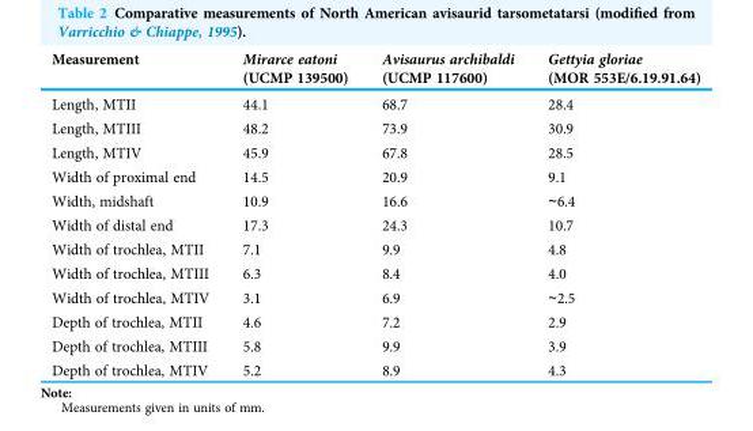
<table><thead><tr><td>Measurement</td><td>Mirarce eatoni (UCMP 139500)</td><td>Avisaurus archibaldi (UCMP 117600)</td><td>Gettyia gloriae (MOR 553E/6.19.91.64)</td></tr></thead><tbody><tr><td>Length, MTII</td><td>44.1</td><td>68.7</td><td>28.4</td></tr><tr><td>Length, MTIII</td><td>48.2</td><td>73.9</td><td>30.9</td></tr><tr><td>Length, MTIV</td><td>45.9</td><td>67.8</td><td>28.5</td></tr><tr><td>Width of proximal end</td><td>14.5</td><td>20.9</td><td>9.1</td></tr><tr><td>Width, midshaft</td><td>10.9</td><td>16.6</td><td>∼6.4</td></tr><tr><td>Width of distal end</td><td>17.3</td><td>24.3</td><td>10.7</td></tr><tr><td>Width of trochlea, MTII</td><td>7.1</td><td>9.9</td><td>4.8</td></tr><tr><td>Width of trochlea, MTIII</td><td>6.3</td><td>8.4</td><td>4.0</td></tr><tr><td>Width of trochlea, MTIV</td><td>3.1</td><td>6.9</td><td>∼2.5</td></tr><tr><td>Depth of trochlea, MTII</td><td>4.6</td><td>7.2</td><td>2.9</td></tr><tr><td>Depth of trochlea, MTIII</td><td>5.8</td><td>9.9</td><td>3.9</td></tr><tr><td>Depth of trochlea, MTIV</td><td>5.2</td><td>8.9</td><td>4.3</td></tr></tbody></table>